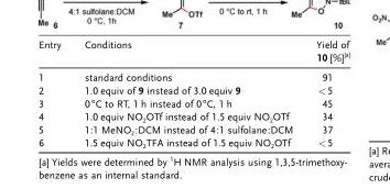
<table><thead><tr><td>Entry</td><td>Conditions</td><td>Yield of 10 [%]<sup>[a]</sup></td></tr></thead><tbody><tr><td>1</td><td>standard conditions</td><td>91</td></tr><tr><td>2</td><td>1.0 equiv of 9 instead of 3.0 equiv 9</td><td>&lt;5</td></tr><tr><td>3</td><td>0°C to RT, 1 h instead of 0°C, 1 h</td><td>45</td></tr><tr><td>4</td><td>1.0 equiv NO<sub>2</sub>OTf instead of 1.5 equiv NO<sub>2</sub>OTf</td><td>34</td></tr><tr><td>5</td><td>1:1 MeNO<sub>2</sub>:DCM instead of 4:1 sulfolane:DCM</td><td>37</td></tr><tr><td>6</td><td>1.5 equiv NO<sub>2</sub>TFA instead of 1.5 equiv NO<sub>2</sub>OTf</td><td>&lt;5</td></tr></tbody></table>